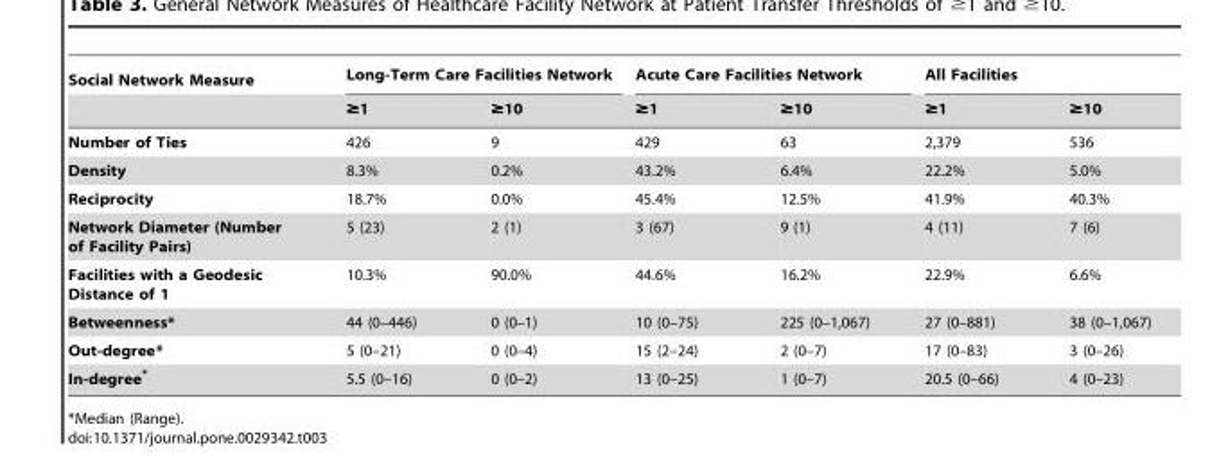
<table><thead><tr><td rowspan="2">Social Network Measure</td><td colspan="2">Long-Term Care Facilities Network</td><td colspan="2">Acute Care Facilities Network</td><td colspan="2">All Facilities</td></tr><tr><td>≥1</td><td>≥10</td><td>≥1</td><td>≥10</td><td>≥1</td><td>≥10</td></tr></thead><tbody><tr><td>Number of Ties</td><td>426</td><td>9</td><td>429</td><td>63</td><td>2,379</td><td>536</td></tr><tr><td>Density</td><td>8.3%</td><td>0.2%</td><td>43.2%</td><td>6.4%</td><td>22.2%</td><td>5.0%</td></tr><tr><td>Reciprocity</td><td>18.7%</td><td>0.0%</td><td>45.4%</td><td>12.5%</td><td>41.9%</td><td>40.3%</td></tr><tr><td>Network Diameter (Number of Facility Pairs)</td><td>5 (23)</td><td>2 (1)</td><td>3 (67)</td><td>9 (1)</td><td>4 (11)</td><td>7 (6)</td></tr><tr><td>Facilities with a Geodesic Distance of 1</td><td>10.3%</td><td>90.0%</td><td>44.6%</td><td>16.2%</td><td>22.9%</td><td>6.6%</td></tr><tr><td>Betweenness*</td><td>44 (0–446)</td><td>0 (0–1)</td><td>10 (0–75)</td><td>225 (0–1,067)</td><td>27 (0–881)</td><td>38 (0–1,067)</td></tr><tr><td>Out-degree*</td><td>5 (0–21)</td><td>0 (0–4)</td><td>15 (2–24)</td><td>2 (0–7)</td><td>17 (0–83)</td><td>3 (0–26)</td></tr><tr><td>In-degree*</td><td>5.5 (0–16)</td><td>0 (0–2)</td><td>13 (0–25)</td><td>1 (0–7)</td><td>20.5 (0–66)</td><td>4 (0–23)</td></tr></tbody></table>